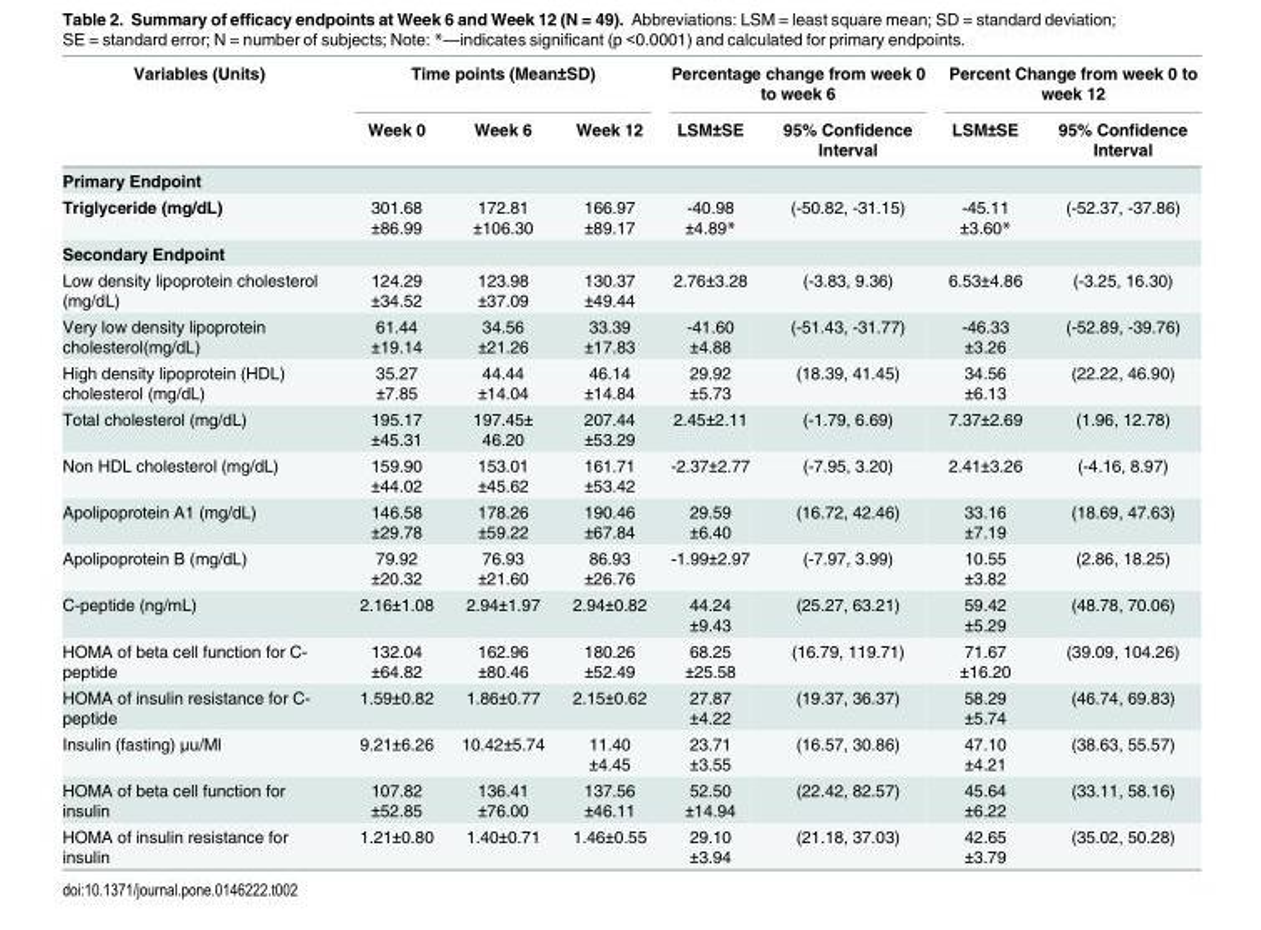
<table><thead><tr><td rowspan="2">Variables (Units)</td><td colspan="3">Time points (Mean±SD)</td><td colspan="2">Percentage change from week 0 to week 6</td><td colspan="2">Percent Change from week 0 to week 12</td></tr><tr><td>Week 0</td><td>Week 6</td><td>Week 12</td><td>LSM±SE</td><td>95% Confidence Interval</td><td>LSM±SE</td><td>95% Confidence Interval</td></tr></thead><tbody><tr><td colspan="8">Primary Endpoint</td></tr><tr><td>Triglyceride (mg/dL)</td><td>301.68 ±86.99</td><td>172.81 ±106.30</td><td>166.97 ±89.17</td><td>-40.98 ±4.89*</td><td>(-50.82, -31.15)</td><td>-45.11 ±3.60*</td><td>(-52.37, -37.86)</td></tr><tr><td colspan="8">Secondary Endpoint</td></tr><tr><td>Low density lipoprotein cholesterol (mg/dL)</td><td>124.29 ±34.52</td><td>123.98 ±37.09</td><td>130.37 ±49.44</td><td>2.76±3.28</td><td>(-3.83, 9.36)</td><td>6.53±4.86</td><td>(-3.25, 16.30)</td></tr><tr><td>Very low density lipoprotein cholesterol(mg/dL)</td><td>61.44 ±19.14</td><td>34.56 ±21.26</td><td>33.39 ±17.83</td><td>-41.60 ±4.88</td><td>(-51.43, -31.77)</td><td>-46.33 ±3.26</td><td>(-52.89, -39.76)</td></tr><tr><td>High density lipoprotein (HDL) cholesterol (mg/dL)</td><td>35.27 ±7.85</td><td>44.44 ±14.04</td><td>46.14 ±14.84</td><td>29.92 ±5.73</td><td>(18.39, 41.45)</td><td>34.56 ±6.13</td><td>(22.22, 46.90)</td></tr><tr><td>Total cholesterol (mg/dL)</td><td>195.17 ±45.31</td><td>197.45± 46.20</td><td>207.44 ±53.29</td><td>2.45±2.11</td><td>(-1.79, 6.69)</td><td>7.37±2.69</td><td>(1.96, 12.78)</td></tr><tr><td>Non HDL cholesterol (mg/dL)</td><td>159.90 ±44.02</td><td>153.01 ±45.62</td><td>161.71 ±53.42</td><td>-2.37±2.77</td><td>(-7.95, 3.20)</td><td>2.41±3.26</td><td>(-4.16, 8.97)</td></tr><tr><td>Apolipoprotein A1 (mg/dL)</td><td>146.58 ±29.78</td><td>178.26 ±59.22</td><td>190.46 ±67.84</td><td>29.59 ±6.40</td><td>(16.72, 42.46)</td><td>33.16 ±7.19</td><td>(18.69, 47.63)</td></tr><tr><td>Apolipoprotein B (mg/dL)</td><td>79.92 ±20.32</td><td>76.93 ±21.60</td><td>86.93 ±26.76</td><td>-1.99±2.97</td><td>(-7.97, 3.99)</td><td>10.55 ±3.82</td><td>(2.86, 18.25)</td></tr><tr><td>C-peptide (ng/mL)</td><td>2.16±1.08</td><td>2.94±1.97</td><td>2.94±0.82</td><td>44.24 ±9.43</td><td>(25.27, 63.21)</td><td>59.42 ±5.29</td><td>(48.78, 70.06)</td></tr><tr><td>HOMA of beta cell function for C- peptide</td><td>132.04 ±64.82</td><td>162.96 ±80.46</td><td>180.26 ±52.49</td><td>68.25 ±25.58</td><td>(16.79, 119.71)</td><td>71.67 ±16.20</td><td>(39.09, 104.26)</td></tr><tr><td>HOMA of insulin resistance for C- peptide</td><td>1.59±0.82</td><td>1.86±0.77</td><td>2.15±0.62</td><td>27.87 ±4.22</td><td>(19.37, 36.37)</td><td>58.29 ±5.74</td><td>(46.74, 69.83)</td></tr><tr><td>Insulin (fasting) μu/Ml</td><td>9.21±6.26</td><td>10.42±5.74</td><td>11.40 ±4.45</td><td>23.71 ±3.55</td><td>(16.57, 30.86)</td><td>47.10 ±4.21</td><td>(38.63, 55.57)</td></tr><tr><td>HOMA of beta cell function for insulin</td><td>107.82 ±52.85</td><td>136.41 ±76.00</td><td>137.56 ±46.11</td><td>52.50 ±14.94</td><td>(22.42, 82.57)</td><td>45.64 ±6.22</td><td>(33.11, 58.16)</td></tr><tr><td>HOMA of insulin resistance for insulin</td><td>1.21±0.80</td><td>1.40±0.71</td><td>1.46±0.55</td><td>29.10 ±3.94</td><td>(21.18, 37.03)</td><td>42.65 ±3.79</td><td>(35.02, 50.28)</td></tr></tbody></table>